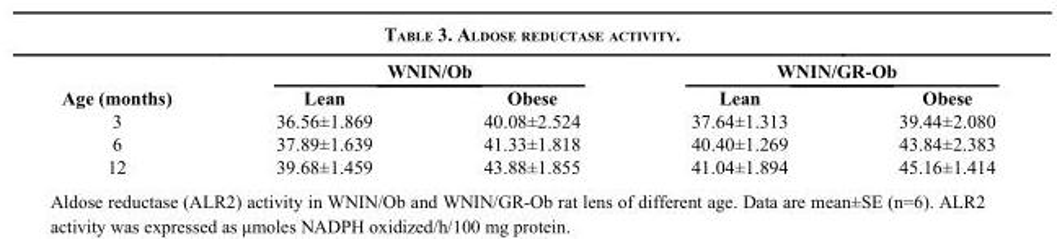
<table><thead><tr><td rowspan="2">Age (months)</td><td colspan="2">WNIN/Ob</td><td colspan="2">WNIN/GR-Ob</td></tr><tr><td>Lean</td><td>Obese</td><td>Lean</td><td>Obese</td></tr></thead><tbody><tr><td>3</td><td>36.56±1.869</td><td>40.08±2.524</td><td>37.64±1.313</td><td>39.44±2.080</td></tr><tr><td>6</td><td>37.89±1.639</td><td>41.33±1.818</td><td>40.40±1.269</td><td>43.84±2.383</td></tr><tr><td>12</td><td>39.68±1.459</td><td>43.88±1.855</td><td>41.04±1.894</td><td>45.16±1.414</td></tr></tbody></table>